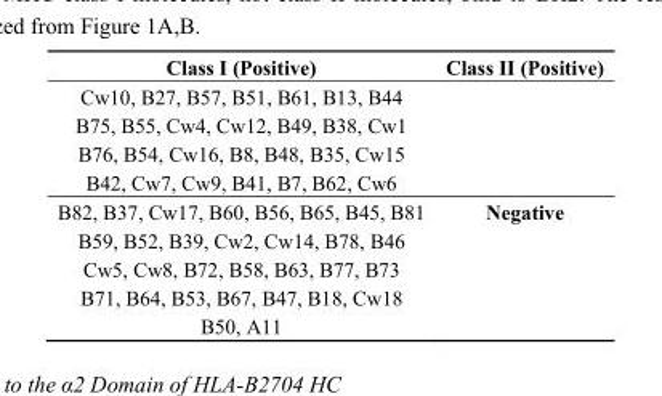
<table><thead><tr><td>Class I (Positive)</td><td>Class II (Positive)</td></tr></thead><tbody><tr><td colspan="2">Cw10, B27, B57, B51, B61, B13, B44</td></tr><tr><td colspan="2">B75, B55, Cw4, Cw12, B49, B38, Cw1</td></tr><tr><td colspan="2">B76, B54, Cw16, B8, B48, B35, Cw15</td></tr><tr><td colspan="2">B42, Cw7, Cw9, B41, B7, B62, Cw6</td></tr><tr><td>B82, B37, Cw17, B60, B56, B65, B45, B81</td><td>Negative</td></tr><tr><td colspan="2">B59, B52, B39, Cw2, Cw14, B78, B46</td></tr><tr><td colspan="2">Cw5, Cw8, B72, B58, B63, B77, B73</td></tr><tr><td colspan="2">B71, B64, B53, B67, B47, B18, Cw18</td></tr><tr><td>B50, A11</td><td></td></tr></tbody></table>